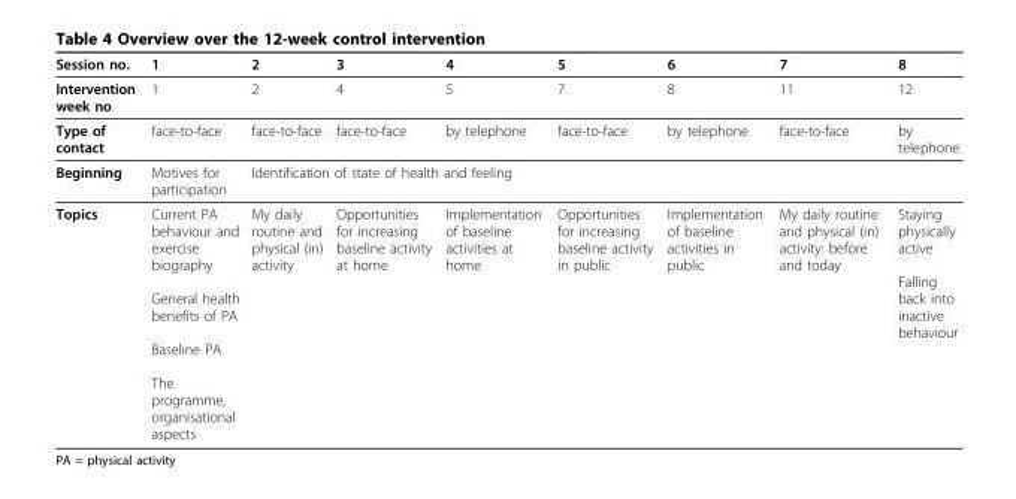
<table><thead><tr><td>Session no.</td><td>1</td><td>2</td><td>3</td><td>4</td><td>5</td><td>6</td><td>7</td><td>8</td></tr></thead><tbody><tr><td>Intervention week no.</td><td>1</td><td>2</td><td>4</td><td>5</td><td>7</td><td>8</td><td>11</td><td>12</td></tr><tr><td>Type of contact</td><td>face-to-face</td><td>face-to-face</td><td>face-to-face</td><td>by telephone</td><td>face-to-face</td><td>by telephone</td><td>face-to-face</td><td>by telephone</td></tr><tr><td>Beginning</td><td>Motives for participation</td><td colspan="7">Identification of state of health and feeling</td></tr><tr><td>Topics</td><td>Current PA behaviour and exercise biography General health benefits of PA Baseline PA The programme, organisational aspects</td><td>My daily routine and physical (in) activity</td><td>Opportunities for increasing baseline activity at home</td><td>Implementation of baseline activities at home</td><td>Opportunities for increasing baseline activity in public</td><td>Implementation of baseline activities in public</td><td>My daily routine and physical (in) activity: before and today</td><td>Staying physically active Falling back into inactive behaviour</td></tr></tbody></table>